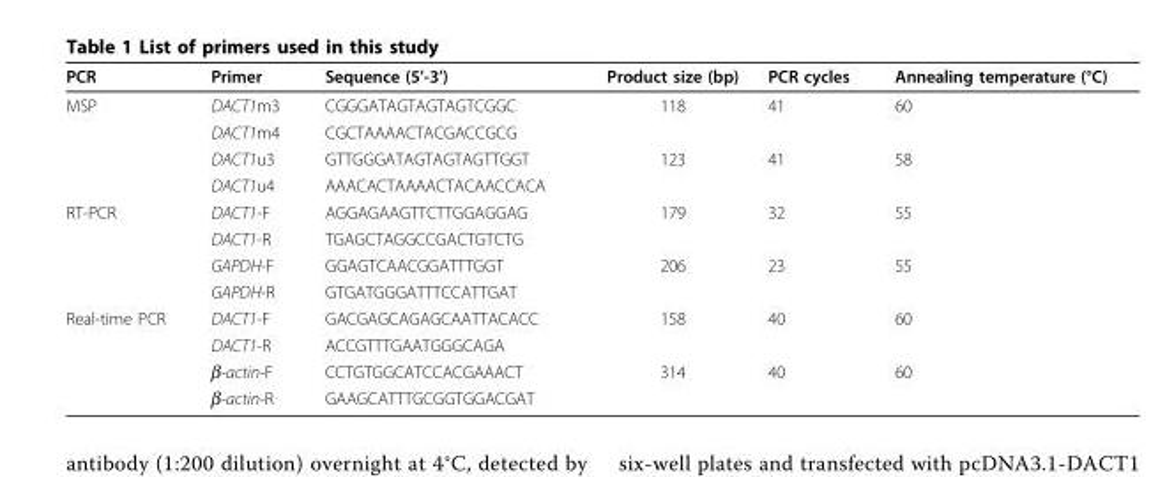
<table><thead><tr><td>PCR</td><td>Primer</td><td>Sequence (5’-3’)</td><td>Product size (bp)</td><td>PCR cycles</td><td>Annealing temperature (°C)</td></tr></thead><tbody><tr><td rowspan="4">MSP</td><td>DACT1m3</td><td>CGGGATAGTAGTAGTCGGC</td><td>118</td><td>41</td><td>60</td></tr><tr><td>DACT1m4</td><td>CGCTAAAACTACGACCGCG</td><td></td><td></td><td></td></tr><tr><td>DACT1u3</td><td>GTTGGGATAGTAGTAGTTGGT</td><td>123</td><td>41</td><td>58</td></tr><tr><td>DACT1u4</td><td>AAACACTAAAACTACAACCACA</td><td></td><td></td><td></td></tr><tr><td rowspan="4">RT-PCR</td><td>DACT1-F</td><td>AGGAGAAGTTCTTGGAGGAG</td><td>179</td><td>32</td><td>55</td></tr><tr><td>DACT1-R</td><td>TGAGCTAGGCCGACTGTCTG</td><td></td><td></td><td></td></tr><tr><td>GAPDH-F</td><td>GGAGTCAACGGATTTGGT</td><td>206</td><td>23</td><td>55</td></tr><tr><td>GAPDH-R</td><td>GTGATGGGATTTCCATTGAT</td><td></td><td></td><td></td></tr><tr><td rowspan="4">Real-time PCR</td><td>DACT1-F</td><td>GACGAGCAGAGCAATTACACC</td><td>158</td><td>40</td><td>60</td></tr><tr><td>DACT1-R</td><td>ACCGTTTGAATGGGCAGA</td><td></td><td></td><td></td></tr><tr><td>β-actin-F</td><td>CCTGTGGCATCCACGAAACT</td><td>314</td><td>40</td><td>60</td></tr><tr><td>β-actin-R</td><td>GAAGCATTTGCGGTGGACGAT</td><td></td><td></td><td></td></tr></tbody></table>